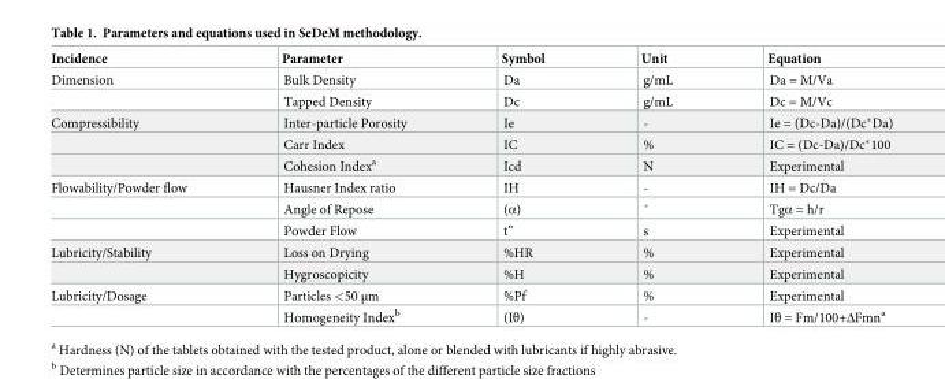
<table><thead><tr><td>Incidence</td><td>Parameter</td><td>Symbol</td><td>Unit</td><td>Equation</td></tr></thead><tbody><tr><td rowspan="2">Dimension</td><td>Bulk Density</td><td>Da</td><td>g/mL</td><td>Da = M/Va</td></tr><tr><td>Tapped Density</td><td>Dc</td><td>g/mL</td><td>Dc = M/Vc</td></tr><tr><td rowspan="3">Compressibility</td><td>Inter-particle Porosity</td><td>Ie</td><td>-</td><td>Ie = (Dc-Da)/(Dc*Da)</td></tr><tr><td>Carr Index</td><td>IC</td><td>%</td><td>IC = (Dc-Da)/Dc*100</td></tr><tr><td>Cohesion Index<sup>a</sup></td><td>Icd</td><td>N</td><td>Experimental</td></tr><tr><td rowspan="3">Flowability/Powder flow</td><td>Hausner Index ratio</td><td>IH</td><td>-</td><td>IH = Dc/Da</td></tr><tr><td>Angle of Repose</td><td>(α)</td><td>˚</td><td>Tgα = h/r</td></tr><tr><td>Powder Flow</td><td>t”</td><td>s</td><td>Experimental</td></tr><tr><td rowspan="2">Lubricity/Stability</td><td>Loss on Drying</td><td>%HR</td><td>%</td><td>Experimental</td></tr><tr><td>Hygroscopicity</td><td>%H</td><td>%</td><td>Experimental</td></tr><tr><td rowspan="2">Lubricity/Dosage</td><td>Particles &lt;50 μm</td><td>%Pf</td><td>%</td><td>Experimental</td></tr><tr><td>Homogeneity Index<sup>b</sup></td><td>(Iθ)</td><td>-</td><td>Iθ = Fm/100+ΔFmn<sup>a</sup></td></tr></tbody></table>